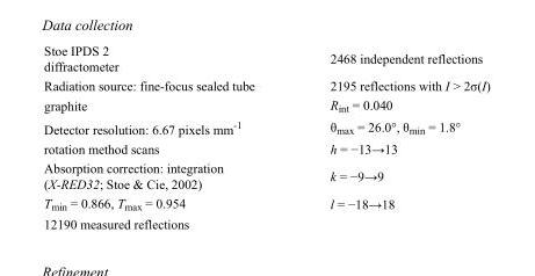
<table><tbody><tr><td>Stoe IPDS 2 diffractometer</td><td>2468 independent reflections</td></tr><tr><td>Radiation source: fine-focus sealed tube</td><td>2195 reflections with I &gt; 2σ(I)</td></tr><tr><td>graphite</td><td>R<sub>int</sub> = 0.040</td></tr><tr><td>Detector resolution: 6.67 pixels mm<sup>-1</sup></td><td>θ<sub>max</sub> = 26.0°, θ<sub>min</sub> = 1.8°</td></tr><tr><td>rotation method scans</td><td>h = −13→13</td></tr><tr><td>Absorption correction: integration (X-RED32; Stoe &amp; Cie, 2002)</td><td>k = −9→9</td></tr><tr><td>T<sub>min</sub> = 0.866, T<sub>max</sub> = 0.954</td><td>l = −18→18</td></tr><tr><td>12190 measured reflections</td><td></td></tr></tbody></table>